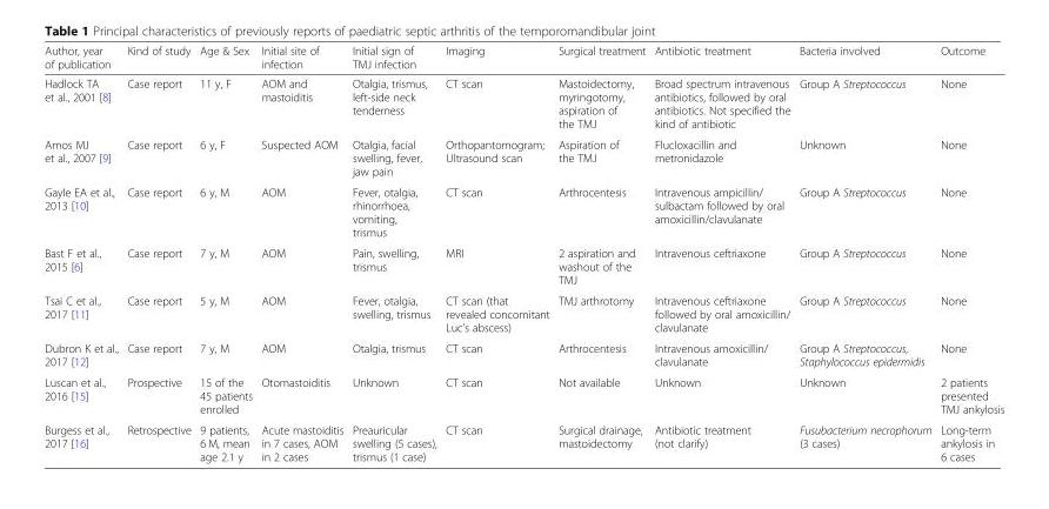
<table><thead><tr><td>Author, year of publication</td><td>Kind of study</td><td>Age &amp; Sex</td><td>Initial site of infection</td><td>Initial sign of TMJ infection</td><td>Imaging</td><td>Surgical treatment</td><td>Antibiotic treatment</td><td>Bacteria involved</td><td>Outcome</td></tr></thead><tbody><tr><td>Hadlock TA et al., 2001 [8]</td><td>Case report</td><td>11 y, F</td><td>AOM and mastoiditis</td><td>Otalgia, trismus, left-side neck tenderness</td><td>CT scan</td><td>Mastoidectomy, myringotomy, aspiration of the TMJ</td><td>Broad spectrum intravenous antibiotics, followed by oral antibiotics. Not specified the kind of antibiotic</td><td>Group A Streptococcus</td><td>None</td></tr><tr><td>Amos MJ et al., 2007 [9]</td><td>Case report</td><td>6 y, F</td><td>Suspected AOM</td><td>Otalgia, facial swelling, fever, jaw pain</td><td>Orthopantomogram; Ultrasound scan</td><td>Aspiration of the TMJ</td><td>Flucloxacillin and metronidazole</td><td>Unknown</td><td>None</td></tr><tr><td>Gayle EA et al., 2013 [10]</td><td>Case report</td><td>6 y, M</td><td>AOM</td><td>Fever, otalgia, rhinorrhoea, vomiting, trismus</td><td>CT scan</td><td>Arthrocentesis</td><td>Intravenous ampicillin/ sulbactam followed by oral amoxicillin/clavulanate</td><td>Group A Streptococcus</td><td>None</td></tr><tr><td>Bast F et al., 2015 [6]</td><td>Case report</td><td>7 y, M</td><td>AOM</td><td>Pain, swelling, trismus</td><td>MRI</td><td>2 aspiration and washout of the TMJ</td><td>Intravenous ceftriaxone</td><td>Group A Streptococcus</td><td>None</td></tr><tr><td>Tsai C et al., 2017 [11]</td><td>Case report</td><td>5 y, M</td><td>AOM</td><td>Fever, otalgia, swelling, trismus</td><td>CT scan (that revealed concomitant Luc’s abscess)</td><td>TMJ arthrotomy</td><td>Intravenous ceftriaxone followed by oral amoxicillin/ clavulanate</td><td>Group A Streptococcus</td><td>None</td></tr><tr><td>Dubron K et al., 2017 [12]</td><td>Case report</td><td>7 y, M</td><td>AOM</td><td>Otalgia, trismus</td><td>CT scan</td><td>Arthrocentesis</td><td>Intravenous amoxicillin/ clavulanate</td><td>Group A Streptococcus, Staphylococcus epidermidis</td><td>None</td></tr><tr><td>Luscan et al., 2016 [15]</td><td>Prospective</td><td>15 of the 45 patients enrolled</td><td>Otomastoiditis</td><td>Unknown</td><td>CT scan</td><td>Not available</td><td>Unknown</td><td>Unknown</td><td>2 patients presented TMJ ankylosis</td></tr><tr><td>Burgess et al., 2017 [16]</td><td>Retrospective</td><td>9 patients, 6 M, mean age 2.1 y</td><td>Acute mastoiditis in 7 cases, AOM in 2 cases</td><td>Preauricular swelling (5 cases), trismus (1 case)</td><td>CT scan</td><td>Surgical drainage, mastoidectomy</td><td>Antibiotic treatment (not clarify)</td><td>Fusubacterium necrophorum (3 cases)</td><td>Long-term ankylosis in 6 cases</td></tr></tbody></table>